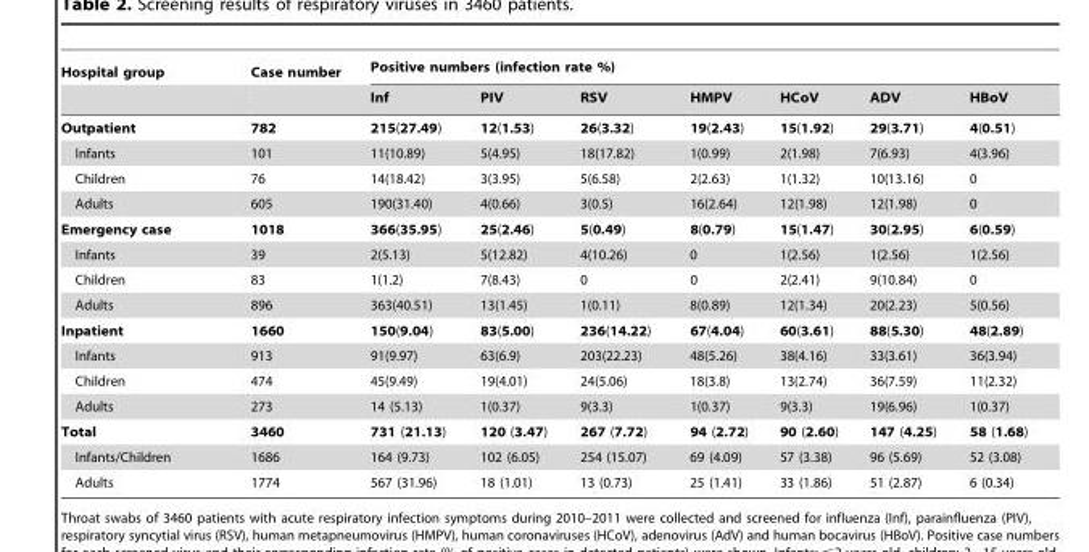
<table><thead><tr><td rowspan="2">Hospital group</td><td rowspan="2">Case number</td><td colspan="7">Positive numbers (infection rate %)</td></tr><tr><td>Inf</td><td>PIV</td><td>RSV</td><td>HMPV</td><td>HCoV</td><td>ADV</td><td>HBoV</td></tr></thead><tbody><tr><td>Outpatient</td><td>782</td><td>215(27.49)</td><td>12(1.53)</td><td>26(3.32)</td><td>19(2.43)</td><td>15(1.92)</td><td>29(3.71)</td><td>4(0.51)</td></tr><tr><td>Infants</td><td>101</td><td>11(10.89)</td><td>5(4.95)</td><td>18(17.82)</td><td>1(0.99)</td><td>2(1.98)</td><td>7(6.93)</td><td>4(3.96)</td></tr><tr><td>Children</td><td>76</td><td>14(18.42)</td><td>3(3.95)</td><td>5(6.58)</td><td>2(2.63)</td><td>1(1.32)</td><td>10(13.16)</td><td>0</td></tr><tr><td>Adults</td><td>605</td><td>190(31.40)</td><td>4(0.66)</td><td>3(0.5)</td><td>16(2.64)</td><td>12(1.98)</td><td>12(1.98)</td><td>0</td></tr><tr><td>Emergency case</td><td>1018</td><td>366(35.95)</td><td>25(2.46)</td><td>5(0.49)</td><td>8(0.79)</td><td>15(1.47)</td><td>30(2.95)</td><td>6(0.59)</td></tr><tr><td>Infants</td><td>39</td><td>2(5.13)</td><td>5(12.82)</td><td>4(10.26)</td><td>0</td><td>1(2.56)</td><td>1(2.56)</td><td>1(2.56)</td></tr><tr><td>Children</td><td>83</td><td>1(1.2)</td><td>7(8.43)</td><td>0</td><td>0</td><td>2(2.41)</td><td>9(10.84)</td><td>0</td></tr><tr><td>Adults</td><td>896</td><td>363(40.51)</td><td>13(1.45)</td><td>1(0.11)</td><td>8(0.89)</td><td>12(1.34)</td><td>20(2.23)</td><td>5(0.56)</td></tr><tr><td>Inpatient</td><td>1660</td><td>150(9.04)</td><td>83(5.00)</td><td>236(14.22)</td><td>67(4.04)</td><td>60(3.61)</td><td>88(5.30)</td><td>48(2.89)</td></tr><tr><td>Infants</td><td>913</td><td>91(9.97)</td><td>63(6.9)</td><td>203(22.23)</td><td>48(5.26)</td><td>38(4.16)</td><td>33(3.61)</td><td>36(3.94)</td></tr><tr><td>Children</td><td>474</td><td>45(9.49)</td><td>19(4.01)</td><td>24(5.06)</td><td>18(3.8)</td><td>13(2.74)</td><td>36(7.59)</td><td>11(2.32)</td></tr><tr><td>Adults</td><td>273</td><td>14 (5.13)</td><td>1(0.37)</td><td>9(3.3)</td><td>1(0.37)</td><td>9(3.3)</td><td>19(6.96)</td><td>1(0.37)</td></tr><tr><td>Total</td><td>3460</td><td>731 (21.13)</td><td>120 (3.47)</td><td>267 (7.72)</td><td>94 (2.72)</td><td>90 (2.60)</td><td>147 (4.25)</td><td>58 (1.68)</td></tr><tr><td>Infants/Children</td><td>1686</td><td>164 (9.73)</td><td>102 (6.05)</td><td>254 (15.07)</td><td>69 (4.09)</td><td>57 (3.38)</td><td>96 (5.69)</td><td>52 (3.08)</td></tr><tr><td>Adults</td><td>1774</td><td>567 (31.96)</td><td>18 (1.01)</td><td>13 (0.73)</td><td>25 (1.41)</td><td>33 (1.86)</td><td>51 (2.87)</td><td>6 (0.34)</td></tr></tbody></table>